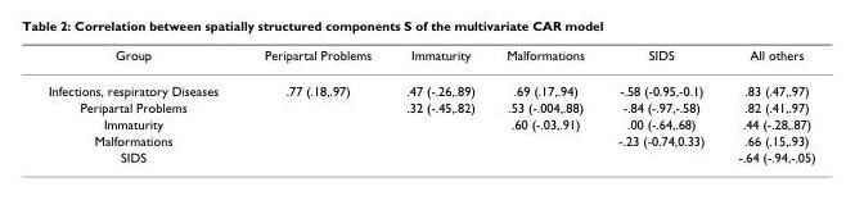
<table><thead><tr><td>Group</td><td>Peripartal Problems</td><td>Immaturity</td><td>Malformations</td><td>SIDS</td><td>All others</td></tr></thead><tbody><tr><td>Infections, respiratory Diseases</td><td>.77 (.18,.97)</td><td>.47 (-.26,.89)</td><td>.69 (.17,.94)</td><td>-.58 (-0.95,-0.1)</td><td>.83 (.47,.97)</td></tr><tr><td>Peripartal Problems</td><td></td><td>.32 (-.45,.82)</td><td>.53 (-.004,.88)</td><td>-.84 (-.97,-.58)</td><td>.82 (.41,.97)</td></tr><tr><td>Immaturity</td><td></td><td></td><td>.60 (-.03,.91)</td><td>.00 (-.64,.68)</td><td>.44 (-.28,.87)</td></tr><tr><td>Malformations</td><td></td><td></td><td></td><td>-.23 (-0.74,0.33)</td><td>.66 (.15,.93)</td></tr><tr><td>SIDS</td><td></td><td></td><td></td><td></td><td>-.64 (-.94,-.05)</td></tr></tbody></table>